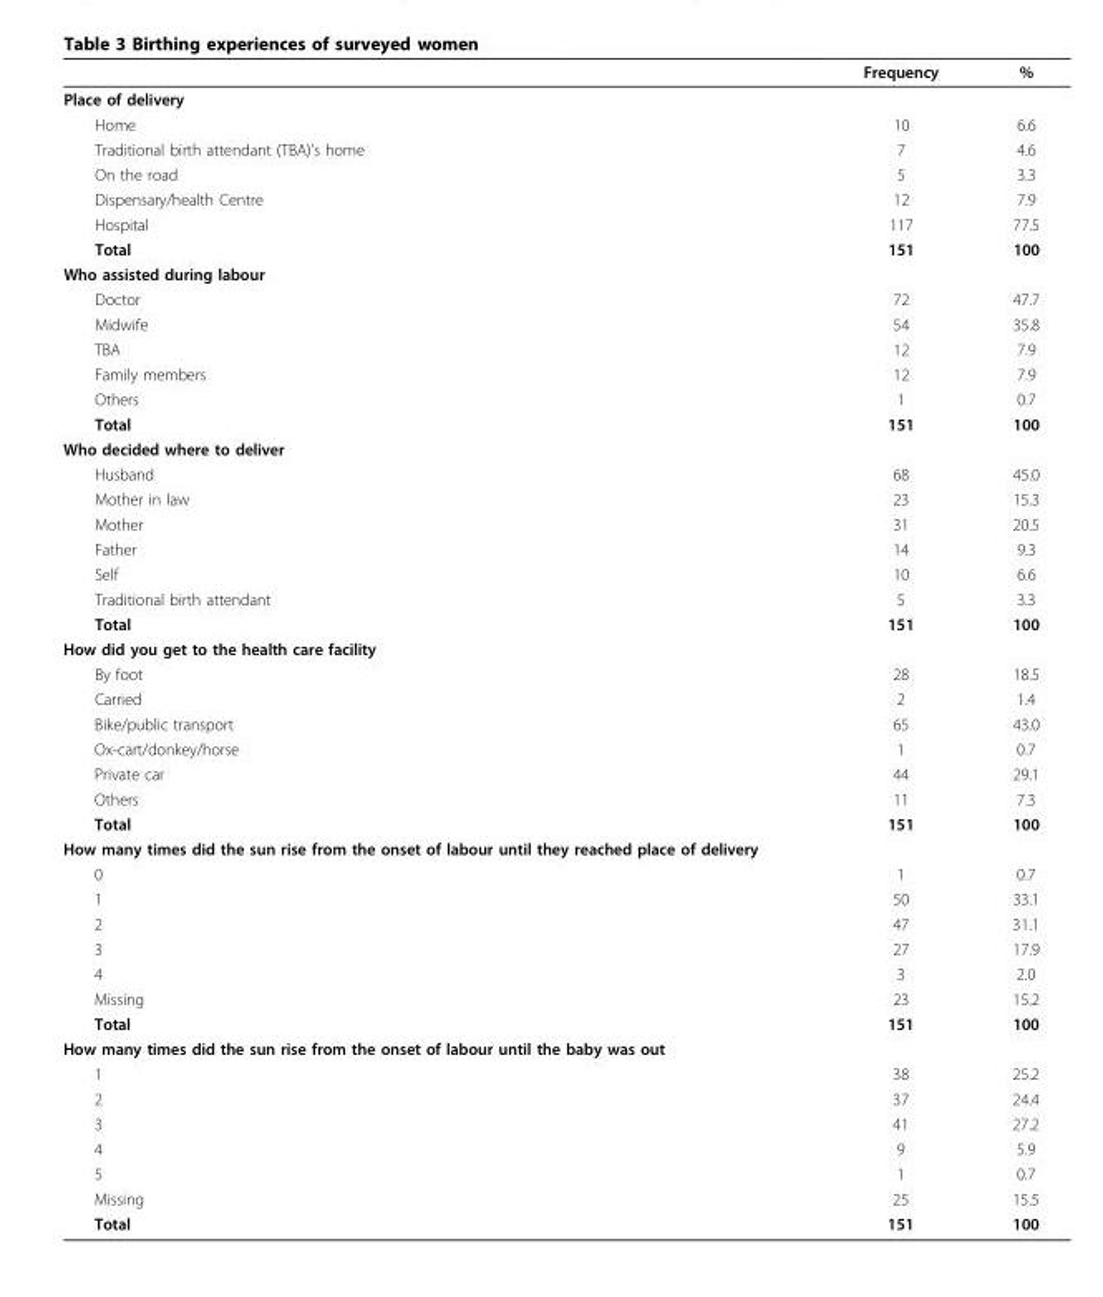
<table><thead><tr><td></td><td>Frequency</td><td>%</td></tr></thead><tbody><tr><td colspan="3">Place of delivery</td></tr><tr><td>Home</td><td>10</td><td>6.6</td></tr><tr><td>Traditional birth attendant (TBA)’s home</td><td>7</td><td>4.6</td></tr><tr><td>On the road</td><td>5</td><td>3.3</td></tr><tr><td>Dispensary/health Centre</td><td>12</td><td>7.9</td></tr><tr><td>Hospital</td><td>117</td><td>77.5</td></tr><tr><td>Total</td><td>151</td><td>100</td></tr><tr><td colspan="3">Who assisted during labour</td></tr><tr><td>Doctor</td><td>72</td><td>47.7</td></tr><tr><td>Midwife</td><td>54</td><td>35.8</td></tr><tr><td>TBA</td><td>12</td><td>7.9</td></tr><tr><td>Family members</td><td>12</td><td>7.9</td></tr><tr><td>Others</td><td>1</td><td>0.7</td></tr><tr><td>Total</td><td>151</td><td>100</td></tr><tr><td colspan="3">Who decided where to deliver</td></tr><tr><td>Husband</td><td>68</td><td>45.0</td></tr><tr><td>Mother in law</td><td>23</td><td>15.3</td></tr><tr><td>Mother</td><td>31</td><td>20.5</td></tr><tr><td>Father</td><td>14</td><td>9.3</td></tr><tr><td>Self</td><td>10</td><td>6.6</td></tr><tr><td>Traditional birth attendant</td><td>5</td><td>3.3</td></tr><tr><td>Total</td><td>151</td><td>100</td></tr><tr><td colspan="3">How did you get to the health care facility</td></tr><tr><td>By foot</td><td>28</td><td>18.5</td></tr><tr><td>Carried</td><td>2</td><td>1.4</td></tr><tr><td>Bike/public transport</td><td>65</td><td>43.0</td></tr><tr><td>Ox-cart/donkey/horse</td><td>1</td><td>0.7</td></tr><tr><td>Private car</td><td>44</td><td>29.1</td></tr><tr><td>Others</td><td>11</td><td>7.3</td></tr><tr><td>Total</td><td>151</td><td>100</td></tr><tr><td colspan="3">How many times did the sun rise from the onset of labour until they reached place of delivery</td></tr><tr><td>0</td><td>1</td><td>0.7</td></tr><tr><td>1</td><td>50</td><td>33.1</td></tr><tr><td>2</td><td>47</td><td>31.1</td></tr><tr><td>3</td><td>27</td><td>17.9</td></tr><tr><td>4</td><td>3</td><td>2.0</td></tr><tr><td>Missing</td><td>23</td><td>15.2</td></tr><tr><td>Total</td><td>151</td><td>100</td></tr><tr><td colspan="3">How many times did the sun rise from the onset of labour until the baby was out</td></tr><tr><td>1</td><td>38</td><td>25.2</td></tr><tr><td>2</td><td>37</td><td>24.4</td></tr><tr><td>3</td><td>41</td><td>27.2</td></tr><tr><td>4</td><td>9</td><td>5.9</td></tr><tr><td>5</td><td>1</td><td>0.7</td></tr><tr><td>Missing</td><td>25</td><td>15.5</td></tr><tr><td>Total</td><td>151</td><td>100</td></tr></tbody></table>